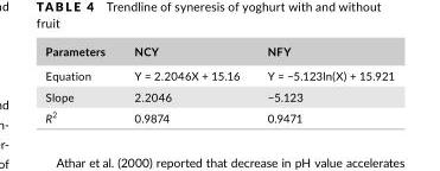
<table><thead><tr><td>Parameters</td><td>NCY</td><td>NFY</td></tr></thead><tbody><tr><td>Equation</td><td>Y = 2.2046X + 15.16</td><td>Y = −5.123ln(X) + 15.921</td></tr><tr><td>Slope</td><td>2.2046</td><td>−5.123</td></tr><tr><td>R<sup>2</sup></td><td>0.9874</td><td>0.9471</td></tr></tbody></table>